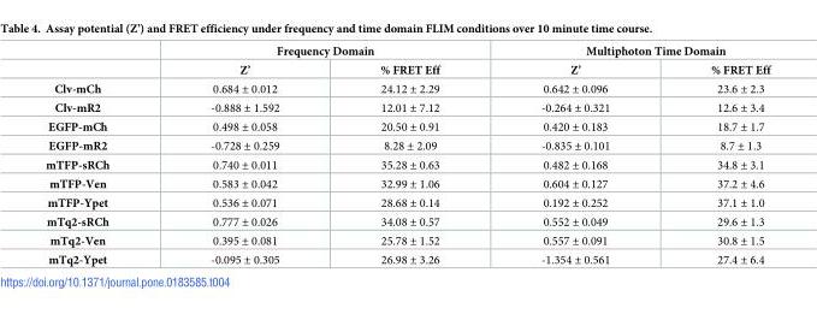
<table><thead><tr><td rowspan="2"></td><td colspan="2">Frequency Domain</td><td colspan="2">Multiphoton Time Domain</td></tr><tr><td>Z’</td><td>% FRET Eff</td><td>Z’</td><td>% FRET Eff</td></tr></thead><tbody><tr><td>Clv-mCh</td><td>0.684 ± 0.012</td><td>24.12 ± 2.29</td><td>0.642 ± 0.096</td><td>23.6 ± 2.3</td></tr><tr><td>Clv-mR2</td><td>-0.888 ± 1.592</td><td>12.01 ± 7.12</td><td>-0.264 ± 0.321</td><td>12.6 ± 3.4</td></tr><tr><td>EGFP-mCh</td><td>0.498 ± 0.058</td><td>20.50 ± 0.91</td><td>0.420 ± 0.183</td><td>18.7 ± 1.7</td></tr><tr><td>EGFP-mR2</td><td>-0.728 ± 0.259</td><td>8.28 ± 2.09</td><td>-0.835 ± 0.101</td><td>8.7 ± 1.3</td></tr><tr><td>mTFP-sRCh</td><td>0.740 ± 0.011</td><td>35.28 ± 0.63</td><td>0.482 ± 0.168</td><td>34.8 ± 3.1</td></tr><tr><td>mTFP-Ven</td><td>0.583 ± 0.042</td><td>32.99 ± 1.06</td><td>0.604 ± 0.127</td><td>37.2 ± 4.6</td></tr><tr><td>mTFP-Ypet</td><td>0.536 ± 0.071</td><td>28.68 ± 0.14</td><td>0.192 ± 0.252</td><td>37.1 ± 1.0</td></tr><tr><td>mTq2-sRCh</td><td>0.777 ± 0.026</td><td>34.08 ± 0.57</td><td>0.552 ± 0.049</td><td>29.6 ± 1.3</td></tr><tr><td>mTq2-Ven</td><td>0.395 ± 0.081</td><td>25.78 ± 1.52</td><td>0.557 ± 0.091</td><td>30.8 ± 1.5</td></tr><tr><td>mTq2-Ypet</td><td>-0.095 ± 0.305</td><td>26.98 ± 3.26</td><td>-1.354 ± 0.561</td><td>27.4 ± 6.4</td></tr></tbody></table>